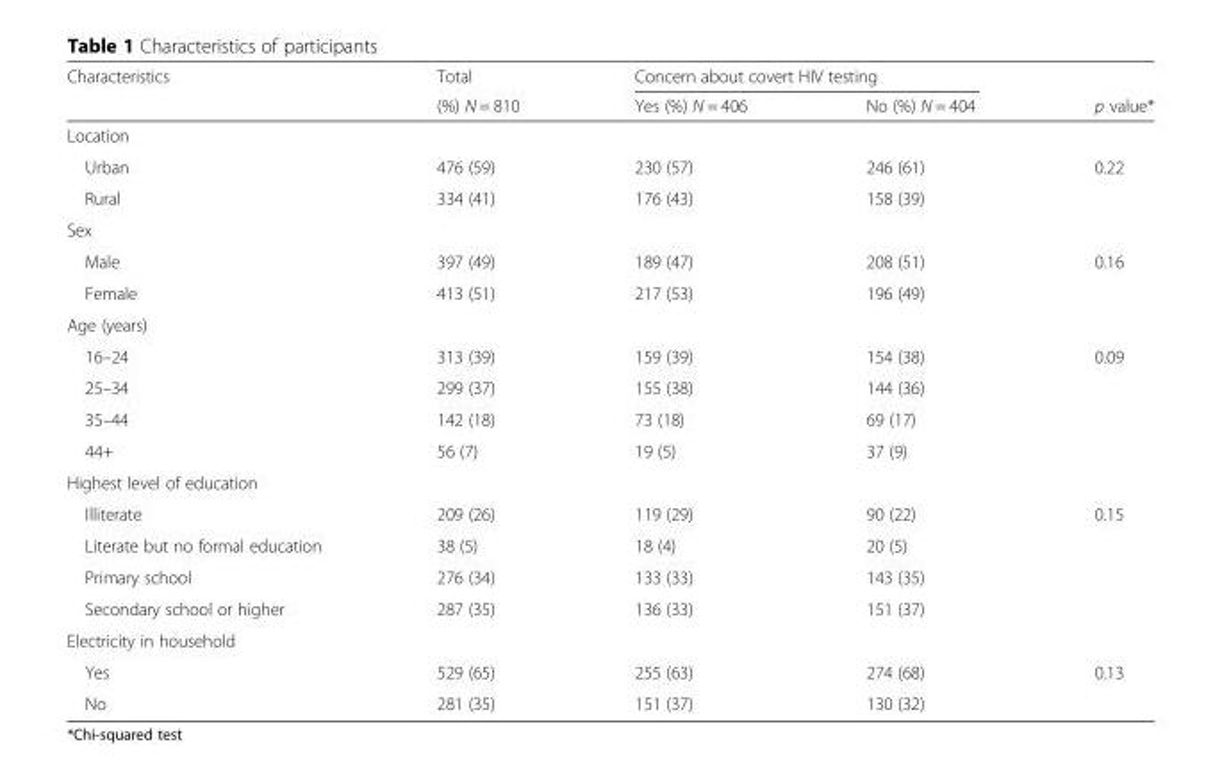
<table><thead><tr><td rowspan="2">Characteristics</td><td rowspan="2">Total (%) N = 810</td><td colspan="2">Concern about covert HIV testing</td><td rowspan="2">p value*</td></tr><tr><td>Yes (%) N = 406</td><td>No (%) N = 404</td></tr></thead><tbody><tr><td colspan="5">Location</td></tr><tr><td>Urban</td><td>476 (59)</td><td>230 (57)</td><td>246 (61)</td><td rowspan="2">0.22</td></tr><tr><td>Rural</td><td>334 (41)</td><td>176 (43)</td><td>158 (39)</td></tr><tr><td colspan="5">Sex</td></tr><tr><td>Male</td><td>397 (49)</td><td>189 (47)</td><td>208 (51)</td><td rowspan="2">0.16</td></tr><tr><td>Female</td><td>413 (51)</td><td>217 (53)</td><td>196 (49)</td></tr><tr><td colspan="5">Age (years)</td></tr><tr><td>16–24</td><td>313 (39)</td><td>159 (39)</td><td>154 (38)</td><td rowspan="4">0.09</td></tr><tr><td>25–34</td><td>299 (37)</td><td>155 (38)</td><td>144 (36)</td></tr><tr><td>35–44</td><td>142 (18)</td><td>73 (18)</td><td>69 (17)</td></tr><tr><td>44+</td><td>56 (7)</td><td>19 (5)</td><td>37 (9)</td></tr><tr><td colspan="5">Highest level of education</td></tr><tr><td>Illiterate</td><td>209 (26)</td><td>119 (29)</td><td>90 (22)</td><td rowspan="4">0.15</td></tr><tr><td>Literate but no formal education</td><td>38 (5)</td><td>18 (4)</td><td>20 (5)</td></tr><tr><td>Primary school</td><td>276 (34)</td><td>133 (33)</td><td>143 (35)</td></tr><tr><td>Secondary school or higher</td><td>287 (35)</td><td>136 (33)</td><td>151 (37)</td></tr><tr><td colspan="5">Electricity in household</td></tr><tr><td>Yes</td><td>529 (65)</td><td>255 (63)</td><td>274 (68)</td><td rowspan="2">0.13</td></tr><tr><td>No</td><td>281 (35)</td><td>151 (37)</td><td>130 (32)</td></tr></tbody></table>